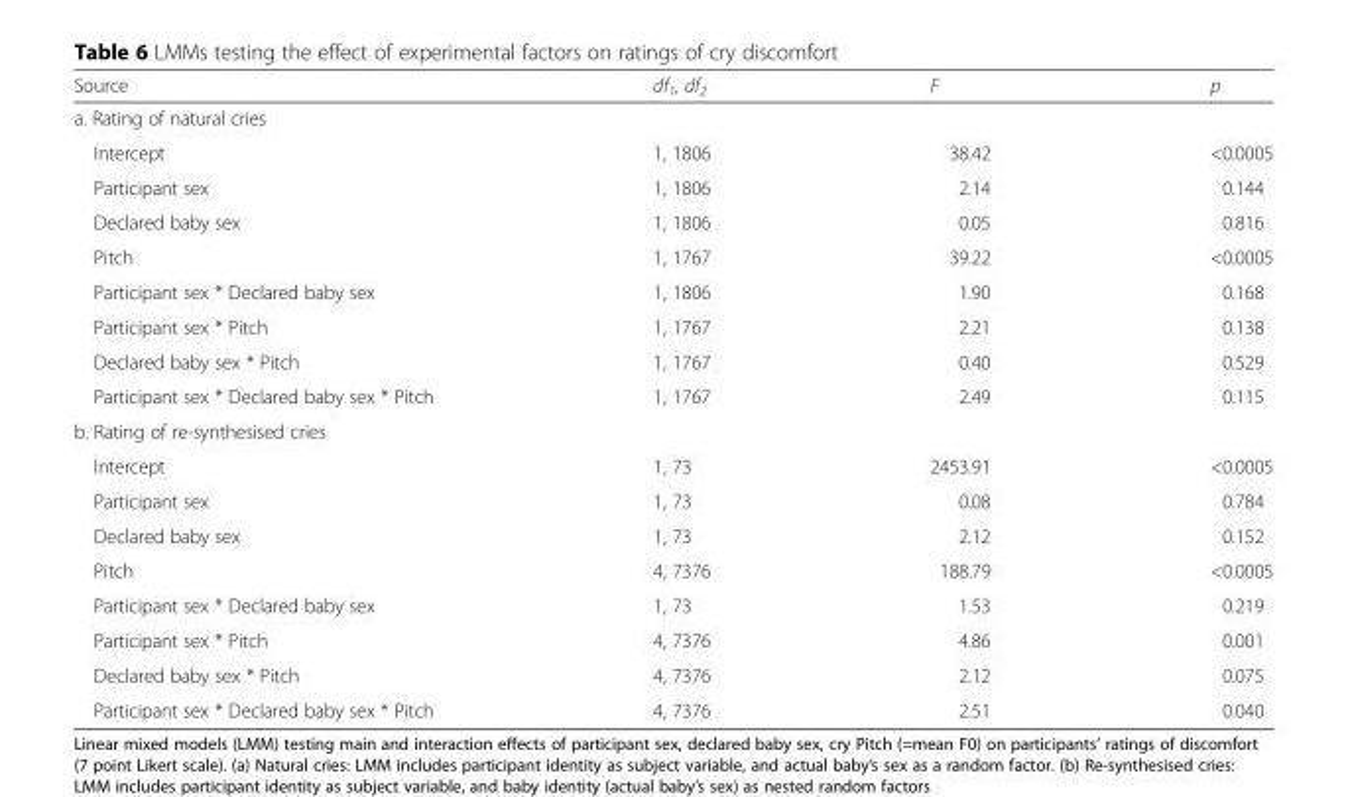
<table><thead><tr><td>Source</td><td>df<sub>1</sub>, df<sub>2</sub></td><td>F</td><td>p</td></tr></thead><tbody><tr><td colspan="4">a. Rating of natural cries</td></tr><tr><td>Intercept</td><td>1, 1806</td><td>38.42</td><td>&lt;0.0005</td></tr><tr><td>Participant sex</td><td>1, 1806</td><td>2.14</td><td>0.144</td></tr><tr><td>Declared baby sex</td><td>1, 1806</td><td>0.05</td><td>0.816</td></tr><tr><td>Pitch</td><td>1, 1767</td><td>39.22</td><td>&lt;0.0005</td></tr><tr><td>Participant sex * Declared baby sex</td><td>1, 1806</td><td>1.90</td><td>0.168</td></tr><tr><td>Participant sex * Pitch</td><td>1, 1767</td><td>2.21</td><td>0.138</td></tr><tr><td>Declared baby sex * Pitch</td><td>1, 1767</td><td>0.40</td><td>0.529</td></tr><tr><td>Participant sex * Declared baby sex * Pitch</td><td>1, 1767</td><td>2.49</td><td>0.115</td></tr><tr><td colspan="4">b. Rating of re-synthesised cries</td></tr><tr><td>Intercept</td><td>1, 73</td><td>2453.91</td><td>&lt;0.0005</td></tr><tr><td>Participant sex</td><td>1, 73</td><td>0.08</td><td>0.784</td></tr><tr><td>Declared baby sex</td><td>1, 73</td><td>2.12</td><td>0.152</td></tr><tr><td>Pitch</td><td>4, 7376</td><td>188.79</td><td>&lt;0.0005</td></tr><tr><td>Participant sex * Declared baby sex</td><td>1, 73</td><td>1.53</td><td>0.219</td></tr><tr><td>Participant sex * Pitch</td><td>4, 7376</td><td>4.86</td><td>0.001</td></tr><tr><td>Declared baby sex * Pitch</td><td>4, 7376</td><td>2.12</td><td>0.075</td></tr><tr><td>Participant sex * Declared baby sex * Pitch</td><td>4, 7376</td><td>2.51</td><td>0.040</td></tr></tbody></table>